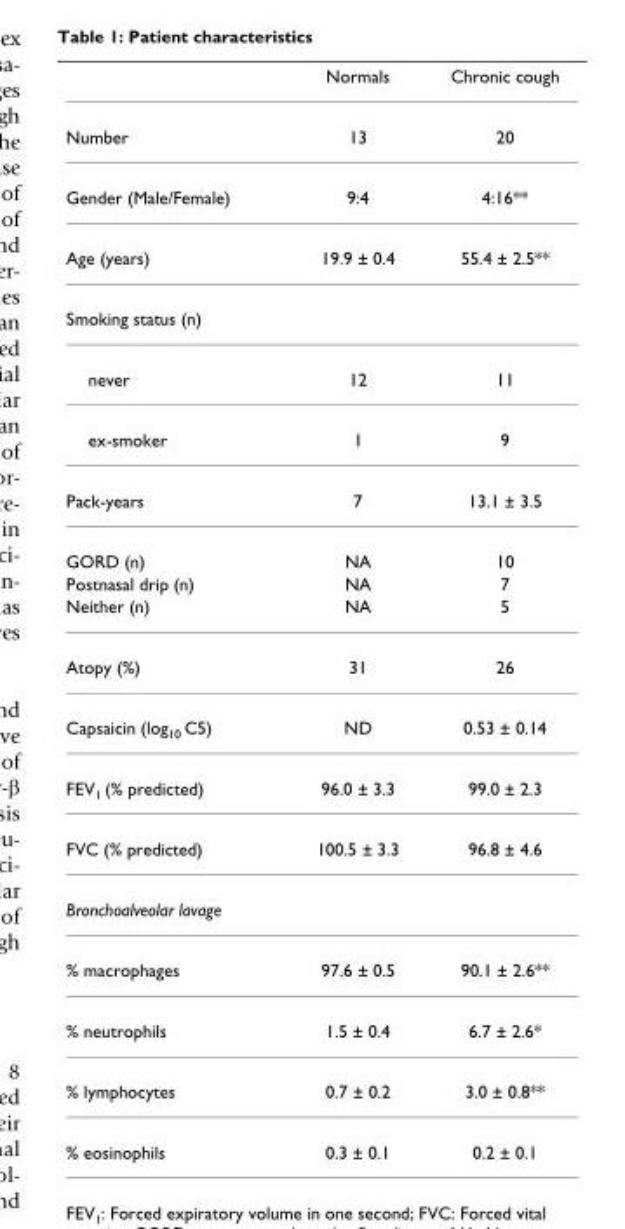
<table><thead><tr><td></td><td>Normals</td><td>Chronic cough</td></tr></thead><tbody><tr><td>Number</td><td>13</td><td>20</td></tr><tr><td>Gender (Male/Female)</td><td>9:4</td><td>4:16**</td></tr><tr><td>Age (years)</td><td>19.9 ± 0.4</td><td>55.4 ± 2.5**</td></tr><tr><td colspan="3">Smoking status (n)</td></tr><tr><td>never</td><td>12</td><td>11</td></tr><tr><td>ex-smoker</td><td>1</td><td>9</td></tr><tr><td>Pack-years</td><td>7</td><td>13.1 ± 3.5</td></tr><tr><td>GORD (n)</td><td>NA</td><td>10</td></tr><tr><td>Postnasal drip (n)</td><td>NA</td><td>7</td></tr><tr><td>Neither (n)</td><td>NA</td><td>5</td></tr><tr><td>Atopy (%)</td><td>31</td><td>26</td></tr><tr><td>Capsaicin (log<sub>10</sub> C5)</td><td>ND</td><td>0.53 ± 0.14</td></tr><tr><td>FEV<sub>1</sub> (% predicted)</td><td>96.0 ± 3.3</td><td>99.0 ± 2.3</td></tr><tr><td>FVC (% predicted)</td><td>100.5 ± 3.3</td><td>96.8 ± 4.6</td></tr><tr><td colspan="3">Bronchoalveolar lavage</td></tr><tr><td>% macrophages</td><td>97.6 ± 0.5</td><td>90.1 ± 2.6**</td></tr><tr><td>% neutrophils</td><td>1.5 ± 0.4</td><td>6.7 ± 2.6*</td></tr><tr><td>% lymphocytes</td><td>0.7 ± 0.2</td><td>3.0 ± 0.8**</td></tr><tr><td>% eosinophils</td><td>0.3 ± 0.1</td><td>0.2 ± 0.1</td></tr></tbody></table>